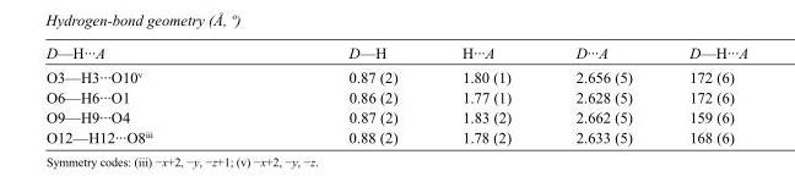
<table><tbody><tr><td>D—H···A</td><td>D—H</td><td>H···A</td><td>D···A</td><td>D—H···A</td></tr><tr><td>O3—H3···O10<sup>v</sup></td><td>0.87 (2)</td><td>1.80 (1)</td><td>2.656 (5)</td><td>172 (6)</td></tr><tr><td>O6—H6···O1</td><td>0.86 (2)</td><td>1.77 (1)</td><td>2.628 (5)</td><td>172 (6)</td></tr><tr><td>O9—H9···O4</td><td>0.87 (2)</td><td>1.83 (2)</td><td>2.662 (5)</td><td>159 (6)</td></tr><tr><td>O12—H12···O8<sup>iii</sup></td><td>0.88 (2)</td><td>1.78 (2)</td><td>2.633 (5)</td><td>168 (6)</td></tr></tbody></table>